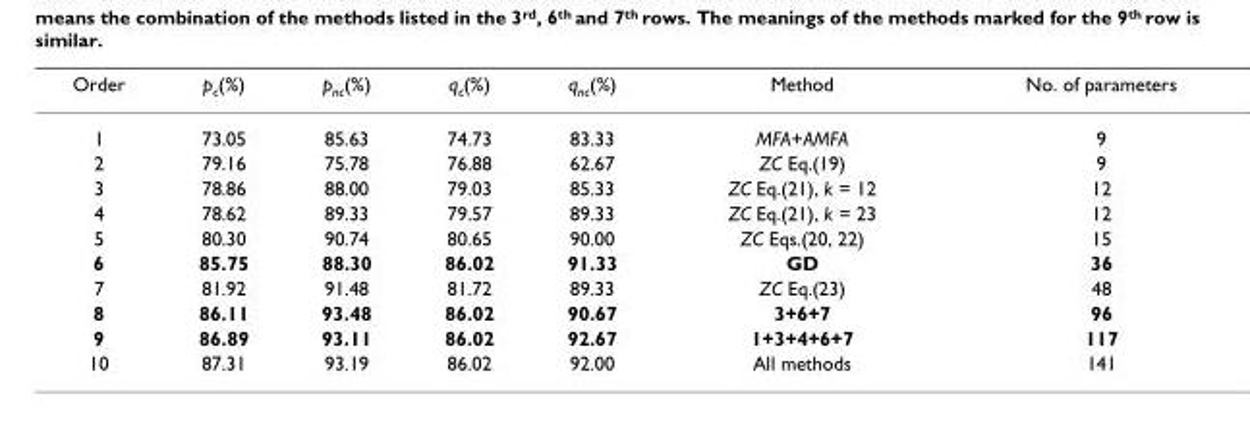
<table><thead><tr><td>Order</td><td>p<sub>c</sub>(%)</td><td>p<sub>nc</sub>(%)</td><td>q<sub>c</sub>(%)</td><td>q<sub>nc</sub>(%)</td><td>Method</td><td>No. of parameters</td></tr></thead><tbody><tr><td>1</td><td>73.05</td><td>85.63</td><td>74.73</td><td>83.33</td><td>MFA+AMFA</td><td>9</td></tr><tr><td>2</td><td>79.16</td><td>75.78</td><td>76.88</td><td>62.67</td><td>ZC Eq.(19)</td><td>9</td></tr><tr><td>3</td><td>78.86</td><td>88.00</td><td>79.03</td><td>85.33</td><td>ZC Eq.(21), k = 12</td><td>12</td></tr><tr><td>4</td><td>78.62</td><td>89.33</td><td>79.57</td><td>89.33</td><td>ZC Eq.(21), k = 23</td><td>12</td></tr><tr><td>5</td><td>80.30</td><td>90.74</td><td>80.65</td><td>90.00</td><td>ZC Eqs.(20, 22)</td><td>15</td></tr><tr><td>6</td><td>85.75</td><td>88.30</td><td>86.02</td><td>91.33</td><td>GD</td><td>36</td></tr><tr><td>7</td><td>81.92</td><td>91.48</td><td>81.72</td><td>89.33</td><td>ZC Eq.(23)</td><td>48</td></tr><tr><td>8</td><td>86.11</td><td>93.48</td><td>86.02</td><td>90.67</td><td>3+6+7</td><td>96</td></tr><tr><td>9</td><td>86.89</td><td>93.11</td><td>86.02</td><td>92.67</td><td>1+3+4+6+7</td><td>117</td></tr><tr><td>10</td><td>87.31</td><td>93.19</td><td>86.02</td><td>92.00</td><td>All methods</td><td>141</td></tr></tbody></table>